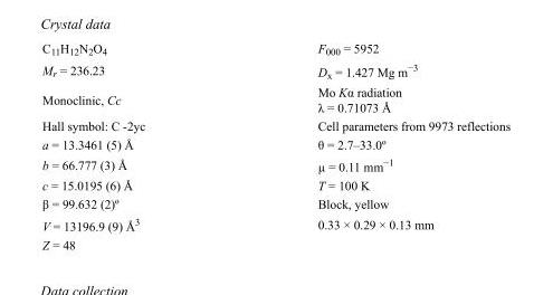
<table><tbody><tr><td>C<sub>11</sub>H<sub>12</sub>N<sub>2</sub>O<sub>4</sub></td><td>F000 = 5952</td></tr><tr><td>M<sub>r</sub> = 236.23</td><td>D<sub>x</sub> = 1.427 Mg m<sup>−3</sup></td></tr><tr><td>Monoclinic, Cc</td><td>Mo Kα radiation λ = 0.71073 Å</td></tr><tr><td>Hall symbol: C -2yc</td><td>Cell parameters from 9973 reflections</td></tr><tr><td>a = 13.3461 (5) Å</td><td>θ = 2.7–33.0º</td></tr><tr><td>b = 66.777 (3) Å</td><td>µ = 0.11 mm<sup>−1</sup></td></tr><tr><td>c = 15.0195 (6) Å</td><td>T = 100 K</td></tr><tr><td>β = 99.632 (2)º</td><td>Block, yellow</td></tr><tr><td>V = 13196.9 (9) Å<sup>3</sup></td><td>0.33 × 0.29 × 0.13 mm</td></tr><tr><td>Z = 48</td><td></td></tr></tbody></table>